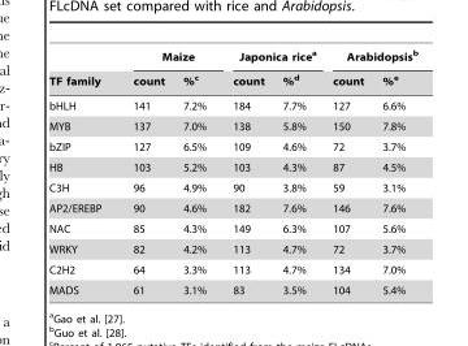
<table><thead><tr><td rowspan="2">TF family</td><td colspan="2">Maize</td><td colspan="2">Japonica rice<sup>a</sup></td><td colspan="2">Arabidopsis<sup>b</sup></td></tr><tr><td>count</td><td>%<sup>c</sup></td><td>count</td><td>%<sup>d</sup></td><td>count</td><td>%<sup>e</sup></td></tr></thead><tbody><tr><td>bHLH</td><td>141</td><td>7.2%</td><td>184</td><td>7.7%</td><td>127</td><td>6.6%</td></tr><tr><td>MYB</td><td>137</td><td>7.0%</td><td>138</td><td>5.8%</td><td>150</td><td>7.8%</td></tr><tr><td>bZIP</td><td>127</td><td>6.5%</td><td>109</td><td>4.6%</td><td>72</td><td>3.7%</td></tr><tr><td>HB</td><td>103</td><td>5.2%</td><td>103</td><td>4.3%</td><td>87</td><td>4.5%</td></tr><tr><td>C3H</td><td>96</td><td>4.9%</td><td>90</td><td>3.8%</td><td>59</td><td>3.1%</td></tr><tr><td>AP2/EREBP</td><td>90</td><td>4.6%</td><td>182</td><td>7.6%</td><td>146</td><td>7.6%</td></tr><tr><td>NAC</td><td>85</td><td>4.3%</td><td>149</td><td>6.3%</td><td>107</td><td>5.6%</td></tr><tr><td>WRKY</td><td>82</td><td>4.2%</td><td>113</td><td>4.7%</td><td>72</td><td>3.7%</td></tr><tr><td>C2H2</td><td>64</td><td>3.3%</td><td>113</td><td>4.7%</td><td>134</td><td>7.0%</td></tr><tr><td>MADS</td><td>61</td><td>3.1%</td><td>83</td><td>3.5%</td><td>104</td><td>5.4%</td></tr></tbody></table>